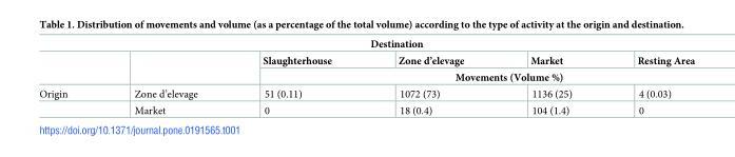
<table><thead><tr><td colspan="6">Destination</td></tr><tr><td rowspan="2"></td><td rowspan="2"></td><td>Slaughterhouse</td><td>Zone d’elevage</td><td>Market</td><td>Resting Area</td></tr><tr><td colspan="4">Movements (Volume %)</td></tr></thead><tbody><tr><td rowspan="2">Origin</td><td>Zone d’elevage</td><td>51 (0.11)</td><td>1072 (73)</td><td>1136 (25)</td><td>4 (0.03)</td></tr><tr><td>Market</td><td>0</td><td>18 (0.4)</td><td>104 (1.4)</td><td>0</td></tr></tbody></table>